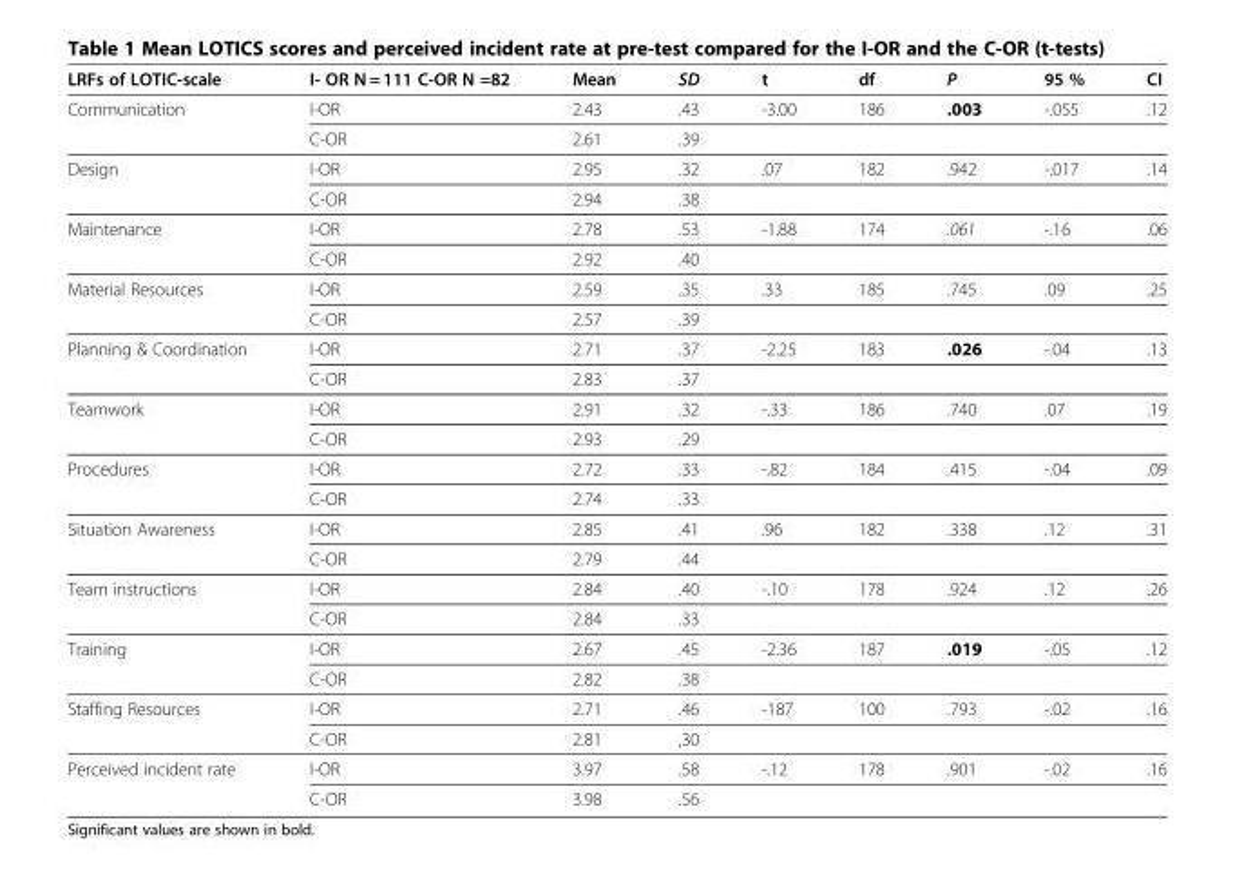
<table><thead><tr><td>LRFs of LOTIC-scale</td><td>I- OR N = 111 C-OR N =82</td><td>Mean</td><td>SD</td><td>t</td><td>df</td><td>P</td><td>95 %</td><td>CI</td></tr></thead><tbody><tr><td rowspan="2">Communication</td><td>I-OR</td><td>2.43</td><td>.43</td><td>-3.00</td><td>186</td><td>.003</td><td>-.055</td><td>.12</td></tr><tr><td>C-OR</td><td>2.61</td><td>.39</td><td></td><td></td><td></td><td></td><td></td></tr><tr><td rowspan="2">Design</td><td>I-OR</td><td>2.95</td><td>.32</td><td>.07</td><td>182</td><td>.942</td><td>-.017</td><td>.14</td></tr><tr><td>C-OR</td><td>2.94</td><td>.38</td><td></td><td></td><td></td><td></td><td></td></tr><tr><td rowspan="2">Maintenance</td><td>I-OR</td><td>2.78</td><td>.53</td><td>-1.88</td><td>174</td><td>.061</td><td>-.16</td><td>.06</td></tr><tr><td>C-OR</td><td>2.92</td><td>.40</td><td></td><td></td><td></td><td></td><td></td></tr><tr><td rowspan="2">Material Resources</td><td>I-OR</td><td>2.59</td><td>.35</td><td>.33</td><td>185</td><td>.745</td><td>.09</td><td>.25</td></tr><tr><td>C-OR</td><td>2.57</td><td>.39</td><td></td><td></td><td></td><td></td><td></td></tr><tr><td rowspan="2">Planning &amp; Coordination</td><td>I-OR</td><td>2.71</td><td>.37</td><td>-2.25</td><td>183</td><td>.026</td><td>-.04</td><td>.13</td></tr><tr><td>C-OR</td><td>2.83</td><td>.37</td><td></td><td></td><td></td><td></td><td></td></tr><tr><td rowspan="2">Teamwork</td><td>I-OR</td><td>2.91</td><td>.32</td><td>-.33</td><td>186</td><td>.740</td><td>.07</td><td>.19</td></tr><tr><td>C-OR</td><td>2.93</td><td>.29</td><td></td><td></td><td></td><td></td><td></td></tr><tr><td rowspan="2">Procedures</td><td>I-OR</td><td>2.72</td><td>.33</td><td>-.82</td><td>184</td><td>.415</td><td>-.04</td><td>.09</td></tr><tr><td>C-OR</td><td>2.74</td><td>.33</td><td></td><td></td><td></td><td></td><td></td></tr><tr><td rowspan="2">Situation Awareness</td><td>I-OR</td><td>2.85</td><td>.41</td><td>.96</td><td>182</td><td>.338</td><td>.12</td><td>.31</td></tr><tr><td>C-OR</td><td>2.79</td><td>.44</td><td></td><td></td><td></td><td></td><td></td></tr><tr><td rowspan="2">Team instructions</td><td>I-OR</td><td>2.84</td><td>.40</td><td>-.10</td><td>178</td><td>.924</td><td>.12</td><td>.26</td></tr><tr><td>C-OR</td><td>2.84</td><td>.33</td><td></td><td></td><td></td><td></td><td></td></tr><tr><td rowspan="2">Training</td><td>I-OR</td><td>2.67</td><td>.45</td><td>-2.36</td><td>187</td><td>.019</td><td>-.05</td><td>.12</td></tr><tr><td>C-OR</td><td>2.82</td><td>.38</td><td></td><td></td><td></td><td></td><td></td></tr><tr><td rowspan="2">Staffing Resources</td><td>I-OR</td><td>2.71</td><td>.46</td><td>-187</td><td>100</td><td>.793</td><td>-.02</td><td>.16</td></tr><tr><td>C-OR</td><td>2.81</td><td>,30</td><td></td><td></td><td></td><td></td><td></td></tr><tr><td rowspan="2">Perceived incident rate</td><td>I-OR</td><td>3.97</td><td>.58</td><td>-.12</td><td>178</td><td>.901</td><td>-.02</td><td>.16</td></tr><tr><td>C-OR</td><td>3.98</td><td>.56</td><td></td><td></td><td></td><td></td><td></td></tr></tbody></table>